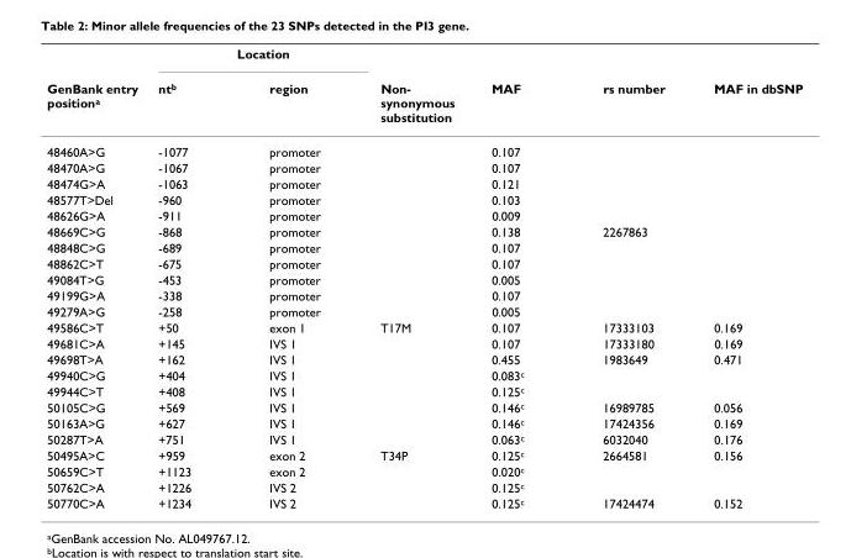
<table><thead><tr><td rowspan="2">GenBank entry position<sup>a</sup></td><td colspan="2">Location</td><td rowspan="2">Non- synonymous substitution</td><td rowspan="2">MAF</td><td rowspan="2">rs number</td><td rowspan="2">MAF in dbSNP</td></tr><tr><td>nt<sup>b</sup></td><td>region</td></tr></thead><tbody><tr><td>48460A&gt;G</td><td>-1077</td><td>promoter</td><td></td><td>0.107</td><td></td><td></td></tr><tr><td>48470A&gt;G</td><td>-1067</td><td>promoter</td><td></td><td>0.107</td><td></td><td></td></tr><tr><td>48474G&gt;A</td><td>-1063</td><td>promoter</td><td></td><td>0.121</td><td></td><td></td></tr><tr><td>48577T&gt;Del</td><td>-960</td><td>promoter</td><td></td><td>0.103</td><td></td><td></td></tr><tr><td>48626G&gt;A</td><td>-911</td><td>promoter</td><td></td><td>0.009</td><td></td><td></td></tr><tr><td>48669C&gt;G</td><td>-868</td><td>promoter</td><td></td><td>0.138</td><td>2267863</td><td></td></tr><tr><td>48848C&gt;G</td><td>-689</td><td>promoter</td><td></td><td>0.107</td><td></td><td></td></tr><tr><td>48862C&gt;T</td><td>-675</td><td>promoter</td><td></td><td>0.107</td><td></td><td></td></tr><tr><td>49084T&gt;G</td><td>-453</td><td>promoter</td><td></td><td>0.005</td><td></td><td></td></tr><tr><td>49199G&gt;A</td><td>-338</td><td>promoter</td><td></td><td>0.107</td><td></td><td></td></tr><tr><td>49279A&gt;G</td><td>-258</td><td>promoter</td><td></td><td>0.005</td><td></td><td></td></tr><tr><td>49586C&gt;T</td><td>+50</td><td>exon 1</td><td>T17M</td><td>0.107</td><td>17333103</td><td>0.169</td></tr><tr><td>49681C&gt;A</td><td>+145</td><td>IVS 1</td><td></td><td>0.107</td><td>17333180</td><td>0.169</td></tr><tr><td>49698T&gt;A</td><td>+162</td><td>IVS 1</td><td></td><td>0.455</td><td>1983649</td><td>0.471</td></tr><tr><td>49940C&gt;G</td><td>+404</td><td>IVS 1</td><td></td><td>0.083<sup>c</sup></td><td></td><td></td></tr><tr><td>49944C&gt;T</td><td>+408</td><td>IVS 1</td><td></td><td>0.125<sup>c</sup></td><td></td><td></td></tr><tr><td>50105C&gt;G</td><td>+569</td><td>IVS 1</td><td></td><td>0.146<sup>c</sup></td><td>16989785</td><td>0.056</td></tr><tr><td>50163A&gt;G</td><td>+627</td><td>IVS 1</td><td></td><td>0.146<sup>c</sup></td><td>17424356</td><td>0.169</td></tr><tr><td>50287T&gt;A</td><td>+751</td><td>IVS 1</td><td></td><td>0.063<sup>c</sup></td><td>6032040</td><td>0.176</td></tr><tr><td>50495A&gt;C</td><td>+959</td><td>exon 2</td><td>T34P</td><td>0.125<sup>c</sup></td><td>2664581</td><td>0.156</td></tr><tr><td>50659C&gt;T</td><td>+1123</td><td>exon 2</td><td></td><td>0.020<sup>c</sup></td><td></td><td></td></tr><tr><td>50762C&gt;A</td><td>+1226</td><td>IVS 2</td><td></td><td>0.125<sup>c</sup></td><td></td><td></td></tr><tr><td>50770C&gt;A</td><td>+1234</td><td>IVS 2</td><td></td><td>0.125<sup>c</sup></td><td>17424474</td><td>0.152</td></tr></tbody></table>